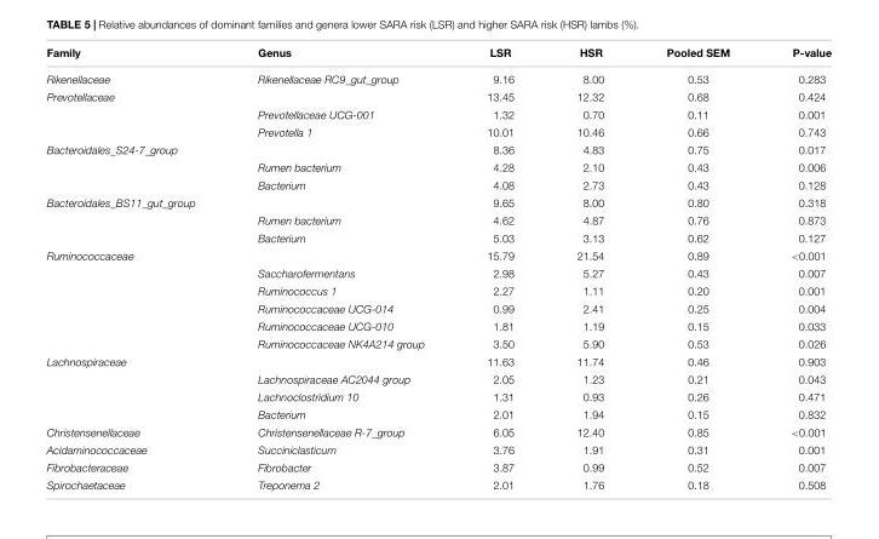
<table><thead><tr><td>Family</td><td>Genus</td><td>LSR</td><td>HSR</td><td>Pooled SEM</td><td>P-value</td></tr></thead><tbody><tr><td>Rikenellaceae</td><td>Rikenellaceae RC9_gut_group</td><td>9.16</td><td>8.00</td><td>0.53</td><td>0.283</td></tr><tr><td rowspan="3">Prevotellaceae</td><td></td><td>13.45</td><td>12.32</td><td>0.68</td><td>0.424</td></tr><tr><td>Prevotellaceae UCG-001</td><td>1.32</td><td>0.70</td><td>0.11</td><td>0.001</td></tr><tr><td>Prevotella 1</td><td>10.01</td><td>10.46</td><td>0.66</td><td>0.743</td></tr><tr><td rowspan="3">Bacteroidales_S24-7_group</td><td></td><td>8.36</td><td>4.83</td><td>0.75</td><td>0.017</td></tr><tr><td>Rumen bacterium</td><td>4.28</td><td>2.10</td><td>0.43</td><td>0.006</td></tr><tr><td>Bacterium</td><td>4.08</td><td>2.73</td><td>0.43</td><td>0.128</td></tr><tr><td rowspan="3">Bacteroidales_BS11_gut_group</td><td></td><td>9.65</td><td>8.00</td><td>0.80</td><td>0.318</td></tr><tr><td>Rumen bacterium</td><td>4.62</td><td>4.87</td><td>0.76</td><td>0.873</td></tr><tr><td>Bacterium</td><td>5.03</td><td>3.13</td><td>0.62</td><td>0.127</td></tr><tr><td rowspan="6">Ruminococcaceae</td><td></td><td>15.79</td><td>21.54</td><td>0.89</td><td>&lt;0.001</td></tr><tr><td>Saccharofermentans</td><td>2.98</td><td>5.27</td><td>0.43</td><td>0.007</td></tr><tr><td>Ruminococcus 1</td><td>2.27</td><td>1.11</td><td>0.20</td><td>0.001</td></tr><tr><td>Ruminococcaceae UCG-014</td><td>0.99</td><td>2.41</td><td>0.25</td><td>0.004</td></tr><tr><td>Ruminococcaceae UCG-010</td><td>1.81</td><td>1.19</td><td>0.15</td><td>0.033</td></tr><tr><td>Ruminococcaceae NK4A214 group</td><td>3.50</td><td>5.90</td><td>0.53</td><td>0.026</td></tr><tr><td rowspan="4">Lachnospiraceae</td><td></td><td>11.63</td><td>11.74</td><td>0.46</td><td>0.903</td></tr><tr><td>Lachnospiraceae AC2044 group</td><td>2.05</td><td>1.23</td><td>0.21</td><td>0.043</td></tr><tr><td>Lachnoclostridium 10</td><td>1.31</td><td>0.93</td><td>0.26</td><td>0.471</td></tr><tr><td>Bacterium</td><td>2.01</td><td>1.94</td><td>0.15</td><td>0.832</td></tr><tr><td>Christensenellaceae</td><td>Christensenellaceae R-7_group</td><td>6.05</td><td>12.40</td><td>0.85</td><td>&lt;0.001</td></tr><tr><td>Acidaminococcaceae</td><td>Succiniclasticum</td><td>3.76</td><td>1.91</td><td>0.31</td><td>0.001</td></tr><tr><td>Fibrobacteraceae</td><td>Fibrobacter</td><td>3.87</td><td>0.99</td><td>0.52</td><td>0.007</td></tr><tr><td>Spirochaetaceae</td><td>Treponema 2</td><td>2.01</td><td>1.76</td><td>0.18</td><td>0.508</td></tr></tbody></table>